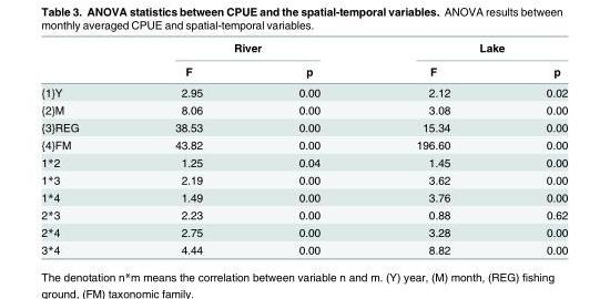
<table><thead><tr><td rowspan="2"></td><td colspan="2">River</td><td colspan="2">Lake</td></tr><tr><td>F</td><td>p</td><td>F</td><td>p</td></tr></thead><tbody><tr><td>{1}Y</td><td>2.95</td><td>0.00</td><td>2.12</td><td>0.02</td></tr><tr><td>{2}M</td><td>8.06</td><td>0.00</td><td>3.08</td><td>0.00</td></tr><tr><td>{3}REG</td><td>38.53</td><td>0.00</td><td>15.34</td><td>0.00</td></tr><tr><td>{4}FM</td><td>43.82</td><td>0.00</td><td>196.60</td><td>0.00</td></tr><tr><td>1*2</td><td>1.25</td><td>0.04</td><td>1.45</td><td>0.00</td></tr><tr><td>1*3</td><td>2.19</td><td>0.00</td><td>3.62</td><td>0.00</td></tr><tr><td>1*4</td><td>1.49</td><td>0.00</td><td>3.76</td><td>0.00</td></tr><tr><td>2*3</td><td>2.23</td><td>0.00</td><td>0.88</td><td>0.62</td></tr><tr><td>2*4</td><td>2.75</td><td>0.00</td><td>3.28</td><td>0.00</td></tr><tr><td>3*4</td><td>4.44</td><td>0.00</td><td>8.82</td><td>0.00</td></tr></tbody></table>